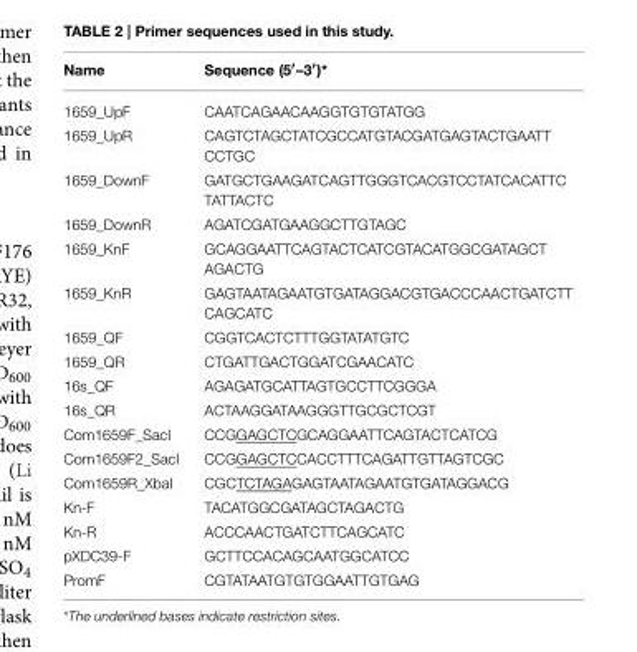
<table><thead><tr><td>Name</td><td>Sequence (5′–3′)*</td></tr></thead><tbody><tr><td>1659_UpF</td><td>CAATCAGAACAAGGTGTGTATGG</td></tr><tr><td>1659_UpR</td><td>CAGTCTAGCTATCGCCATGTACGATGAGTACTGAATT CCTGC</td></tr><tr><td>1659_DownF</td><td>GATGCTGAAGATCAGTTGGGTCACGTCCTATCACATTC TATTACTC</td></tr><tr><td>1659_DownR</td><td>AGATCGATGAAGGCTTGTAGC</td></tr><tr><td>1659_KnF</td><td>GCAGGAATTCAGTACTCATCGTACATGGCGATAGCT AGACTG</td></tr><tr><td>1659_KnR</td><td>GAGTAATAGAATGTGATAGGACGTGACCCAACTGATCTT CAGCATC</td></tr><tr><td>1659_QF</td><td>CGGTCACTCTTTGGTATATGTC</td></tr><tr><td>1659_QR</td><td>CTGATTGACTGGATCGAACATC</td></tr><tr><td>16s_QF</td><td>AGAGATGCATTAGTGCCTTCGGGA</td></tr><tr><td>16s_QR</td><td>ACTAAGGATAAGGGTTGCGCTCGT</td></tr><tr><td>Com1659F_SacI</td><td>CCGGAGCTCGCAGGAATTCAGTACTCATCG</td></tr><tr><td>Com1659F2_SacI</td><td>CCGGAGCTCCACCTTTCAGATTGTTAGTCGC</td></tr><tr><td>Com1659R_XbaI</td><td>CGCTCTAGAGAGTAATAGAATGTGATAGGACG</td></tr><tr><td>Kn-F</td><td>TACATGGCGATAGCTAGACTG</td></tr><tr><td>Kn-R</td><td>ACCCAACTGATCTTCAGCATC</td></tr><tr><td>pXDC39-F</td><td>GCTTCCACAGCAATGGCATCC</td></tr><tr><td>PromF</td><td>CGTATAATGTGTGGAATTGTGAG</td></tr></tbody></table>